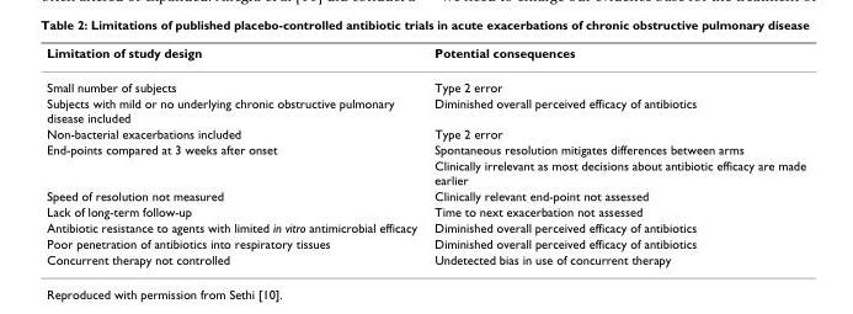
<table><thead><tr><td>Limitation of study design</td><td>Potential consequences</td></tr></thead><tbody><tr><td>Small number of subjects</td><td>Type 2 error</td></tr><tr><td>Subjects with mild or no underlying chronic obstructive pulmonary disease included</td><td>Diminished overall perceived efficacy of antibiotics</td></tr><tr><td>Non-bacterial exacerbations included</td><td>Type 2 error</td></tr><tr><td rowspan="2">End-points compared at 3 weeks after onset</td><td>Spontaneous resolution mitigates differences between arms</td></tr><tr><td>Clinically irrelevant as most decisions about antibiotic efficacy are made earlier</td></tr><tr><td>Speed of resolution not measured</td><td>Clinically relevant end-point not assessed</td></tr><tr><td>Lack of long-term follow-up</td><td>Time to next exacerbation not assessed</td></tr><tr><td>Antibiotic resistance to agents with limited in vitro antimicrobial efficacy</td><td>Diminished overall perceived efficacy of antibiotics</td></tr><tr><td>Poor penetration of antibiotics into respiratory tissues</td><td>Diminished overall perceived efficacy of antibiotics</td></tr><tr><td>Concurrent therapy not controlled</td><td>Undetected bias in use of concurrent therapy</td></tr></tbody></table>